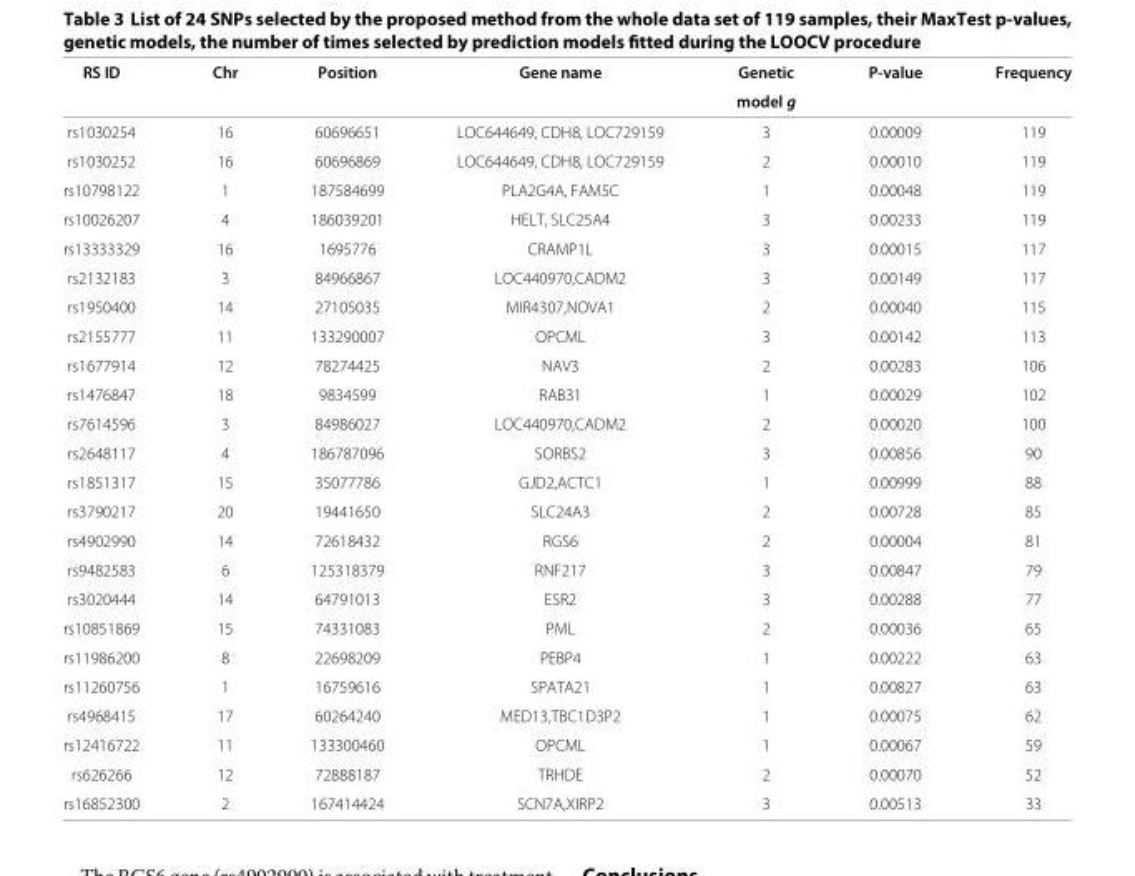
<table><thead><tr><td rowspan="2">RS ID</td><td rowspan="2">Chr</td><td rowspan="2">Position</td><td rowspan="2">Gene name</td><td rowspan="2">Genetic model g</td><td rowspan="2">P-value</td><td rowspan="2">Frequency</td></tr><tr></tr></thead><tbody><tr><td>rs1030254</td><td>16</td><td>60696651</td><td>LOC644649, CDH8, LOC729159</td><td>3</td><td>0.00009</td><td>119</td></tr><tr><td>rs1030252</td><td>16</td><td>60696869</td><td>LOC644649, CDH8, LOC729159</td><td>2</td><td>0.00010</td><td>119</td></tr><tr><td>rs10798122</td><td>1</td><td>187584699</td><td>PLA2G4A, FAM5C</td><td>1</td><td>0.00048</td><td>119</td></tr><tr><td>rs10026207</td><td>4</td><td>186039201</td><td>HELT, SLC25A4</td><td>3</td><td>0.00233</td><td>119</td></tr><tr><td>rs13333329</td><td>16</td><td>1695776</td><td>CRAMP1L</td><td>3</td><td>0.00015</td><td>117</td></tr><tr><td>rs2132183</td><td>3</td><td>84966867</td><td>LOC440970,CADM2</td><td>3</td><td>0.00149</td><td>117</td></tr><tr><td>rs1950400</td><td>14</td><td>27105035</td><td>MIR4307,NOVA1</td><td>2</td><td>0.00040</td><td>115</td></tr><tr><td>rs2155777</td><td>11</td><td>133290007</td><td>OPCML</td><td>3</td><td>0.00142</td><td>113</td></tr><tr><td>rs1677914</td><td>12</td><td>78274425</td><td>NAV3</td><td>2</td><td>0.00283</td><td>106</td></tr><tr><td>rs1476847</td><td>18</td><td>9834599</td><td>RAB31</td><td>1</td><td>0.00029</td><td>102</td></tr><tr><td>rs7614596</td><td>3</td><td>84986027</td><td>LOC440970,CADM2</td><td>2</td><td>0.00020</td><td>100</td></tr><tr><td>rs2648117</td><td>4</td><td>186787096</td><td>SORBS2</td><td>3</td><td>0.00856</td><td>90</td></tr><tr><td>rs1851317</td><td>15</td><td>35077786</td><td>GJD2,ACTC1</td><td>1</td><td>0.00999</td><td>88</td></tr><tr><td>rs3790217</td><td>20</td><td>19441650</td><td>SLC24A3</td><td>2</td><td>0.00728</td><td>85</td></tr><tr><td>rs4902990</td><td>14</td><td>72618432</td><td>RGS6</td><td>2</td><td>0.00004</td><td>81</td></tr><tr><td>rs9482583</td><td>6</td><td>125318379</td><td>RNF217</td><td>3</td><td>0.00847</td><td>79</td></tr><tr><td>rs3020444</td><td>14</td><td>64791013</td><td>ESR2</td><td>3</td><td>0.00288</td><td>77</td></tr><tr><td>rs10851869</td><td>15</td><td>74331083</td><td>PML</td><td>2</td><td>0.00036</td><td>65</td></tr><tr><td>rs11986200</td><td>8</td><td>22698209</td><td>PEBP4</td><td>1</td><td>0.00222</td><td>63</td></tr><tr><td>rs11260756</td><td>1</td><td>16759616</td><td>SPATA21</td><td>1</td><td>0.00827</td><td>63</td></tr><tr><td>rs4968415</td><td>17</td><td>60264240</td><td>MED13,TBC1D3P2</td><td>1</td><td>0.00075</td><td>62</td></tr><tr><td>rs12416722</td><td>11</td><td>133300460</td><td>OPCML</td><td>1</td><td>0.00067</td><td>59</td></tr><tr><td>rs626266</td><td>12</td><td>72888187</td><td>TRHDE</td><td>2</td><td>0.00070</td><td>52</td></tr><tr><td>rs16852300</td><td>2</td><td>167414424</td><td>SCN7A,XIRP2</td><td>3</td><td>0.00513</td><td>33</td></tr></tbody></table>